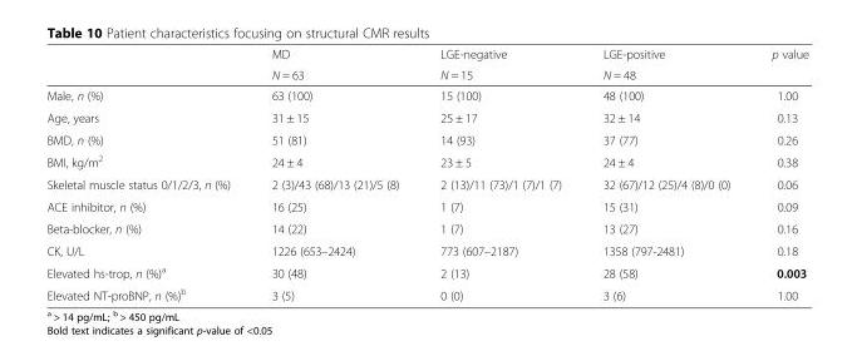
<table><thead><tr><td rowspan="2"></td><td rowspan="2">MD N = 63</td><td rowspan="2">LGE-negative N = 15</td><td rowspan="2">LGE-positive N = 48</td><td rowspan="2">p value</td></tr><tr></tr></thead><tbody><tr><td>Male, n (%)</td><td>63 (100)</td><td>15 (100)</td><td>48 (100)</td><td>1.00</td></tr><tr><td>Age, years</td><td>31 ± 15</td><td>25 ± 17</td><td>32 ± 14</td><td>0.13</td></tr><tr><td>BMD, n (%)</td><td>51 (81)</td><td>14 (93)</td><td>37 (77)</td><td>0.26</td></tr><tr><td>BMI, kg/m<sup>2</sup></td><td>24 ± 4</td><td>23 ± 5</td><td>24 ± 4</td><td>0.38</td></tr><tr><td>Skeletal muscle status 0/1/2/3, n (%)</td><td>2 (3)/43 (68)/13 (21)/5 (8)</td><td>2 (13)/11 (73)/1 (7)/1 (7)</td><td>32 (67)/12 (25)/4 (8)/0 (0)</td><td>0.06</td></tr><tr><td>ACE inhibitor, n (%)</td><td>16 (25)</td><td>1 (7)</td><td>15 (31)</td><td>0.09</td></tr><tr><td>Beta-blocker, n (%)</td><td>14 (22)</td><td>1 (7)</td><td>13 (27)</td><td>0.16</td></tr><tr><td>CK, U/L</td><td>1226 (653–2424)</td><td>773 (607–2187)</td><td>1358 (797-2481)</td><td>0.18</td></tr><tr><td>Elevated hs-trop, n (%)<sup>a</sup></td><td>30 (48)</td><td>2 (13)</td><td>28 (58)</td><td>0.003</td></tr><tr><td>Elevated NT-proBNP, n (%)<sup>b</sup></td><td>3 (5)</td><td>0 (0)</td><td>3 (6)</td><td>1.00</td></tr></tbody></table>